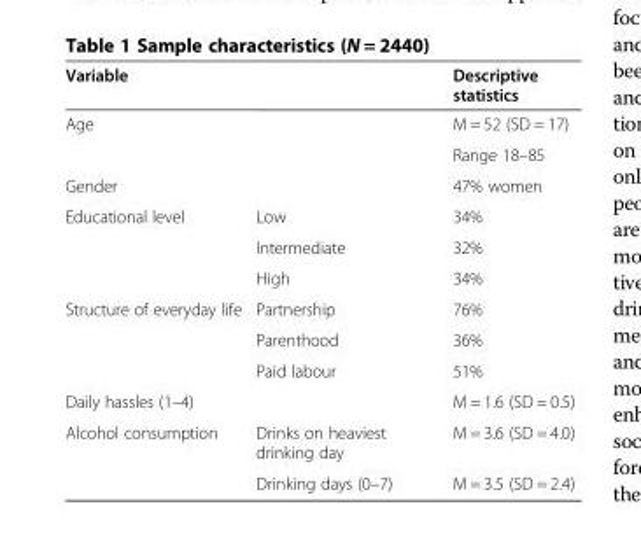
<table><thead><tr><td>Variable</td><td></td><td>Descriptive statistics</td></tr></thead><tbody><tr><td rowspan="2">Age</td><td rowspan="2"></td><td>M = 52 (SD = 17)</td></tr><tr><td>Range 18–85</td></tr><tr><td>Gender</td><td></td><td>47% women</td></tr><tr><td rowspan="3">Educational level</td><td>Low</td><td>34%</td></tr><tr><td>Intermediate</td><td>32%</td></tr><tr><td>High</td><td>34%</td></tr><tr><td rowspan="3">Structure of everyday life</td><td>Partnership</td><td>76%</td></tr><tr><td>Parenthood</td><td>36%</td></tr><tr><td>Paid labour</td><td>51%</td></tr><tr><td>Daily hassles (1–4)</td><td></td><td>M = 1.6 (SD = 0.5)</td></tr><tr><td rowspan="2">Alcohol consumption</td><td>Drinks on heaviest drinking day</td><td>M = 3.6 (SD = 4.0)</td></tr><tr><td>Drinking days (0–7)</td><td>M = 3.5 (SD = 2.4)</td></tr></tbody></table>